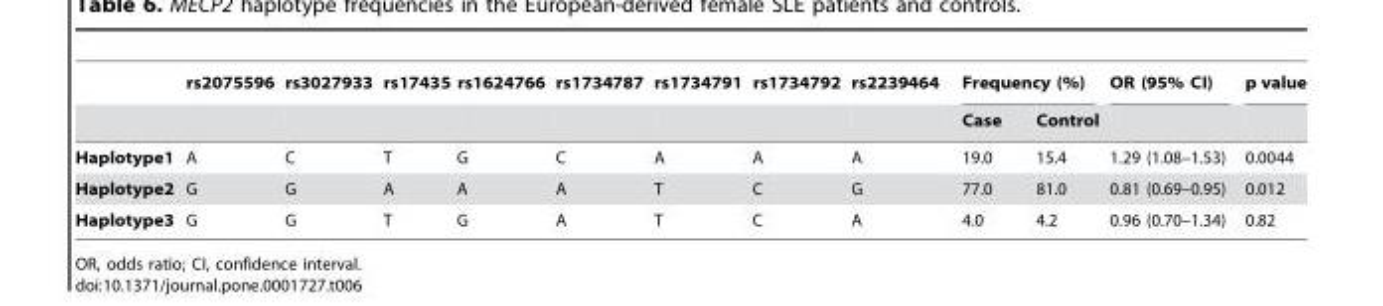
<table><thead><tr><td rowspan="2"></td><td rowspan="2">rs2075596</td><td rowspan="2">rs3027933</td><td rowspan="2">rs17435</td><td rowspan="2">rs1624766</td><td rowspan="2">rs1734787</td><td rowspan="2">rs1734791</td><td rowspan="2">rs1734792</td><td rowspan="2">rs2239464</td><td colspan="2">Frequency (%)</td><td rowspan="2">OR (95% CI)</td><td rowspan="2">p value</td></tr><tr><td>Case</td><td>Control</td></tr></thead><tbody><tr><td>Haplotype1</td><td>A</td><td>C</td><td>T</td><td>G</td><td>C</td><td>A</td><td>A</td><td>A</td><td>19.0</td><td>15.4</td><td>1.29 (1.08–1.53)</td><td>0.0044</td></tr><tr><td>Haplotype2</td><td>G</td><td>G</td><td>A</td><td>A</td><td>A</td><td>T</td><td>C</td><td>G</td><td>77.0</td><td>81.0</td><td>0.81 (0.69–0.95)</td><td>0.012</td></tr><tr><td>Haplotype3</td><td>G</td><td>G</td><td>T</td><td>G</td><td>A</td><td>T</td><td>C</td><td>A</td><td>4.0</td><td>4.2</td><td>0.96 (0.70–1.34)</td><td>0.82</td></tr></tbody></table>